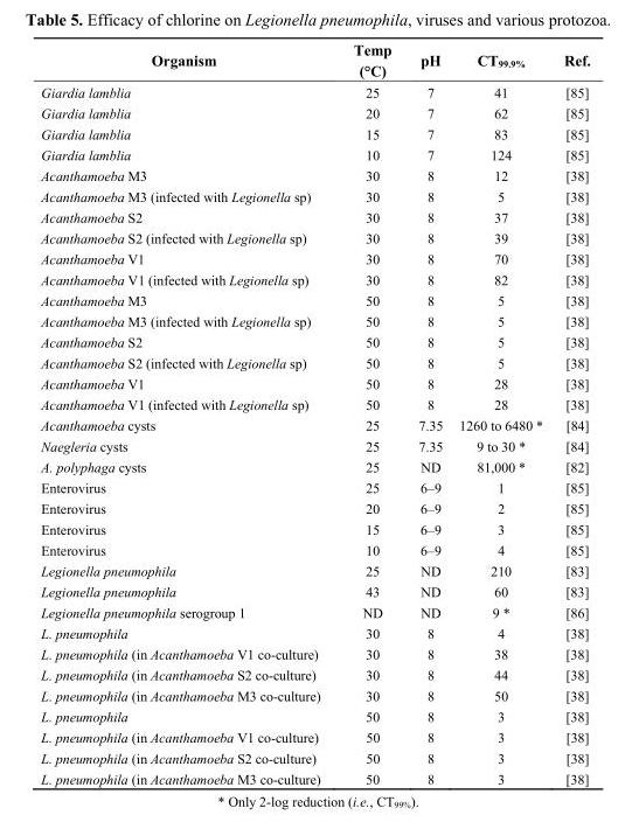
<table><thead><tr><td>Organism</td><td>Temp (°C)</td><td>pH</td><td>CT<sub>99.9%</sub></td><td>Ref.</td></tr></thead><tbody><tr><td>Giardia lamblia</td><td>25</td><td>7</td><td>41</td><td>[85]</td></tr><tr><td>Giardia lamblia</td><td>20</td><td>7</td><td>62</td><td>[85]</td></tr><tr><td>Giardia lamblia</td><td>15</td><td>7</td><td>83</td><td>[85]</td></tr><tr><td>Giardia lamblia</td><td>10</td><td>7</td><td>124</td><td>[85]</td></tr><tr><td>Acanthamoeba M3</td><td>30</td><td>8</td><td>12</td><td>[38]</td></tr><tr><td>Acanthamoeba M3 (infected with Legionella sp)</td><td>30</td><td>8</td><td>5</td><td>[38]</td></tr><tr><td>Acanthamoeba S2</td><td>30</td><td>8</td><td>37</td><td>[38]</td></tr><tr><td>Acanthamoeba S2 (infected with Legionella sp)</td><td>30</td><td>8</td><td>39</td><td>[38]</td></tr><tr><td>Acanthamoeba V1</td><td>30</td><td>8</td><td>70</td><td>[38]</td></tr><tr><td>Acanthamoeba V1 (infected with Legionella sp)</td><td>30</td><td>8</td><td>82</td><td>[38]</td></tr><tr><td>Acanthamoeba M3</td><td>50</td><td>8</td><td>5</td><td>[38]</td></tr><tr><td>Acanthamoeba M3 (infected with Legionella sp)</td><td>50</td><td>8</td><td>5</td><td>[38]</td></tr><tr><td>Acanthamoeba S2</td><td>50</td><td>8</td><td>5</td><td>[38]</td></tr><tr><td>Acanthamoeba S2 (infected with Legionella sp)</td><td>50</td><td>8</td><td>5</td><td>[38]</td></tr><tr><td>Acanthamoeba V1</td><td>50</td><td>8</td><td>28</td><td>[38]</td></tr><tr><td>Acanthamoeba V1 (infected with Legionella sp)</td><td>50</td><td>8</td><td>28</td><td>[38]</td></tr><tr><td>Acanthamoeba cysts</td><td>25</td><td>7.35</td><td>1260 to 6480 *</td><td>[84]</td></tr><tr><td>Naegleria cysts</td><td>25</td><td>7.35</td><td>9 to 30 *</td><td>[84]</td></tr><tr><td>A. polyphaga cysts</td><td>25</td><td>ND</td><td>81,000 *</td><td>[82]</td></tr><tr><td>Enterovirus</td><td>25</td><td>6–9</td><td>1</td><td>[85]</td></tr><tr><td>Enterovirus</td><td>20</td><td>6–9</td><td>2</td><td>[85]</td></tr><tr><td>Enterovirus</td><td>15</td><td>6–9</td><td>3</td><td>[85]</td></tr><tr><td>Enterovirus</td><td>10</td><td>6–9</td><td>4</td><td>[85]</td></tr><tr><td>Legionella pneumophila</td><td>25</td><td>ND</td><td>210</td><td>[83]</td></tr><tr><td>Legionella pneumophila</td><td>43</td><td>ND</td><td>60</td><td>[83]</td></tr><tr><td>Legionella pneumophila serogroup 1</td><td>ND</td><td>ND</td><td>9 *</td><td>[86]</td></tr><tr><td>L. pneumophila</td><td>30</td><td>8</td><td>4</td><td>[38]</td></tr><tr><td>L. pneumophila (in Acanthamoeba V1 co-culture)</td><td>30</td><td>8</td><td>38</td><td>[38]</td></tr><tr><td>L. pneumophila (in Acanthamoeba S2 co-culture)</td><td>30</td><td>8</td><td>44</td><td>[38]</td></tr><tr><td>L. pneumophila (in Acanthamoeba M3 co-culture)</td><td>30</td><td>8</td><td>50</td><td>[38]</td></tr><tr><td>L. pneumophila</td><td>50</td><td>8</td><td>3</td><td>[38]</td></tr><tr><td>L. pneumophila (in Acanthamoeba V1 co-culture)</td><td>50</td><td>8</td><td>3</td><td>[38]</td></tr><tr><td>L. pneumophila (in Acanthamoeba S2 co-culture)</td><td>50</td><td>8</td><td>3</td><td>[38]</td></tr><tr><td>L. pneumophila (in Acanthamoeba M3 co-culture)</td><td>50</td><td>8</td><td>3</td><td>[38]</td></tr></tbody></table>